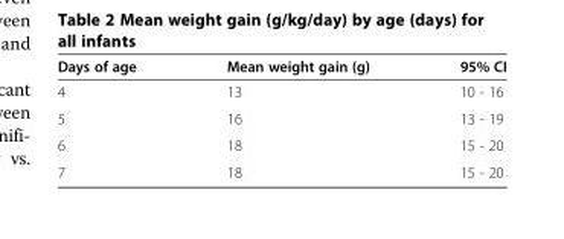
<table><thead><tr><td>Days of age</td><td>Mean weight gain (g)</td><td>95% CI</td></tr></thead><tbody><tr><td>4</td><td>13</td><td>10 - 16</td></tr><tr><td>5</td><td>16</td><td>13 - 19</td></tr><tr><td>6</td><td>18</td><td>15 - 20</td></tr><tr><td>7</td><td>18</td><td>15 - 20</td></tr></tbody></table>